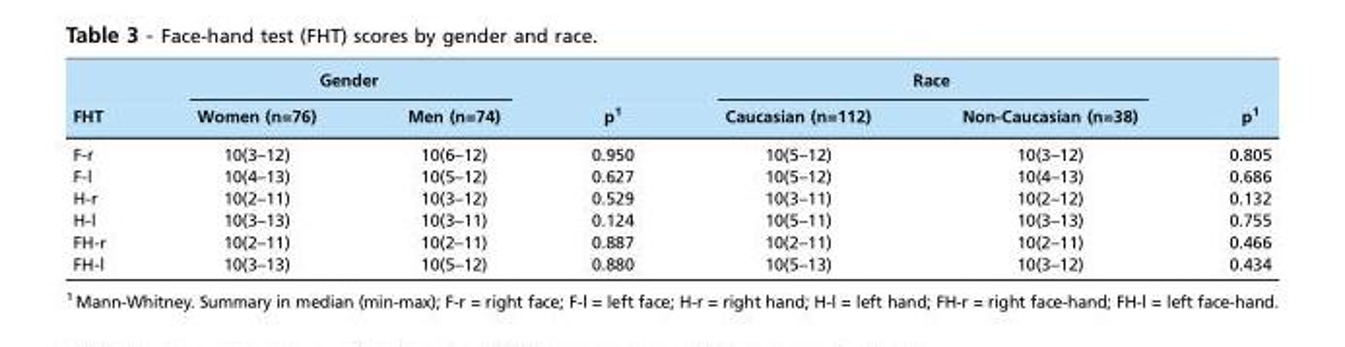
<table><thead><tr><td rowspan="2">FHT</td><td colspan="2">Gender</td><td rowspan="2">p<sup>1</sup></td><td colspan="2">Race</td><td rowspan="2">p<sup>1</sup></td></tr><tr><td>Women (n=76)</td><td>Men (n=74)</td><td>Caucasian (n=112)</td><td>Non-Caucasian (n=38)</td></tr></thead><tbody><tr><td>F-r</td><td>10(3–12)</td><td>10(6–12)</td><td>0.950</td><td>10(5–12)</td><td>10(3–12)</td><td>0.805</td></tr><tr><td>F-l</td><td>10(4–13)</td><td>10(5–12)</td><td>0.627</td><td>10(5–12)</td><td>10(4–13)</td><td>0.686</td></tr><tr><td>H-r</td><td>10(2–11)</td><td>10(3–12)</td><td>0.529</td><td>10(3–11)</td><td>10(2–12)</td><td>0.132</td></tr><tr><td>H-l</td><td>10(3–13)</td><td>10(3–11)</td><td>0.124</td><td>10(5–11)</td><td>10(3–13)</td><td>0.755</td></tr><tr><td>FH-r</td><td>10(2–11)</td><td>10(2–11)</td><td>0.887</td><td>10(2–11)</td><td>10(2–11)</td><td>0.466</td></tr><tr><td>FH-l</td><td>10(3–13)</td><td>10(5–12)</td><td>0.880</td><td>10(5–13)</td><td>10(3–12)</td><td>0.434</td></tr></tbody></table>